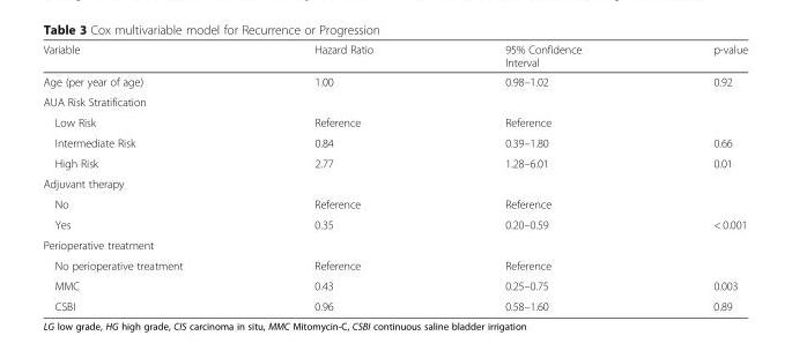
<table><thead><tr><td>Variable</td><td>Hazard Ratio</td><td>95% Confidence Interval</td><td>p-value</td></tr></thead><tbody><tr><td>Age (per year of age)</td><td>1.00</td><td>0.98–1.02</td><td>0.92</td></tr><tr><td colspan="4">AUA Risk Stratification</td></tr><tr><td>Low Risk</td><td>Reference</td><td>Reference</td><td></td></tr><tr><td>Intermediate Risk</td><td>0.84</td><td>0.39–1.80</td><td>0.66</td></tr><tr><td>High Risk</td><td>2.77</td><td>1.28–6.01</td><td>0.01</td></tr><tr><td colspan="4">Adjuvant therapy</td></tr><tr><td>No</td><td>Reference</td><td>Reference</td><td></td></tr><tr><td>Yes</td><td>0.35</td><td>0.20–0.59</td><td>&lt; 0.001</td></tr><tr><td colspan="4">Perioperative treatment</td></tr><tr><td>No perioperative treatment</td><td>Reference</td><td>Reference</td><td></td></tr><tr><td>MMC</td><td>0.43</td><td>0.25–0.75</td><td>0.003</td></tr><tr><td>CSBI</td><td>0.96</td><td>0.58–1.60</td><td>0.89</td></tr></tbody></table>